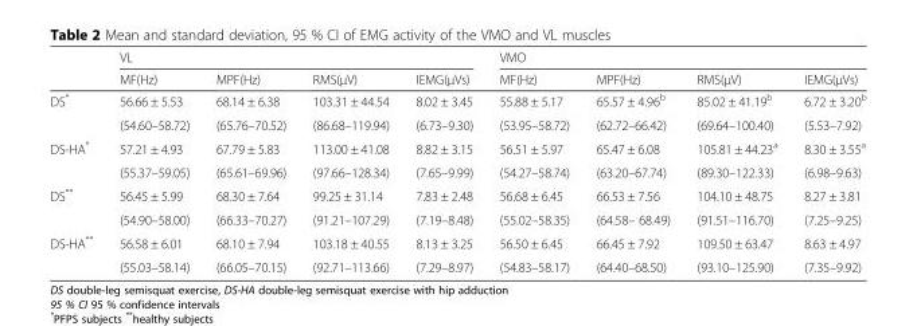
<table><thead><tr><td rowspan="2"></td><td colspan="4">VL</td><td colspan="4">VMO</td></tr><tr><td>MF(Hz)</td><td>MPF(Hz)</td><td>RMS(μV)</td><td>IEMG(μVs)</td><td>MF(Hz)</td><td>MPF(Hz)</td><td>RMS(μV)</td><td>IEMG(μVs)</td></tr></thead><tbody><tr><td rowspan="2">DS*</td><td>56.66 ± 5.53</td><td>68.14 ± 6.38</td><td>103.31 ± 44.54</td><td>8.02 ± 3.45</td><td>55.88 ± 5.17</td><td>65.57 ± 4.96<sup>b</sup></td><td>85.02 ± 41.19<sup>b</sup></td><td>6.72 ± 3.20<sup>b</sup></td></tr><tr><td>(54.60–58.72)</td><td>(65.76–70.52)</td><td>(86.68–119.94)</td><td>(6.73–9.30)</td><td>(53.95–58.72)</td><td>(62.72–66.42)</td><td>(69.64–100.40)</td><td>(5.53–7.92)</td></tr><tr><td rowspan="2">DS-HA*</td><td>57.21 ± 4.93</td><td>67.79 ± 5.83</td><td>113.00 ± 41.08</td><td>8.82 ± 3.15</td><td>56.51 ± 5.97</td><td>65.47 ± 6.08</td><td>105.81 ± 44.23<sup>a</sup></td><td>8.30 ± 3.55<sup>a</sup></td></tr><tr><td>(55.37–59.05)</td><td>(65.61–69.96)</td><td>(97.66–128.34)</td><td>(7.65–9.99)</td><td>(54.27–58.74)</td><td>(63.20–67.74)</td><td>(89.30–122.33)</td><td>(6.98–9.63)</td></tr><tr><td rowspan="2">DS**</td><td>56.45 ± 5.99</td><td>68.30 ± 7.64</td><td>99.25 ± 31.14</td><td>7.83 ± 2.48</td><td>56.68 ± 6.45</td><td>66.53 ± 7.56</td><td>104.10 ± 48.75</td><td>8.27 ± 3.81</td></tr><tr><td>(54.90–58.00)</td><td>(66.33–70.27)</td><td>(91.21–107.29)</td><td>(7.19–8.48)</td><td>(55.02–58.35)</td><td>(64.58– 68.49)</td><td>(91.51–116.70)</td><td>(7.25–9.25)</td></tr><tr><td rowspan="2">DS-HA**</td><td>56.58 ± 6.01</td><td>68.10 ± 7.94</td><td>103.18 ± 40.55</td><td>8.13 ± 3.25</td><td>56.50 ± 6.45</td><td>66.45 ± 7.92</td><td>109.50 ± 63.47</td><td>8.63 ± 4.97</td></tr><tr><td>(55.03–58.14)</td><td>(66.05–70.15)</td><td>(92.71–113.66)</td><td>(7.29–8.97)</td><td>(54.83–58.17)</td><td>(64.40–68.50)</td><td>(93.10–125.90)</td><td>(7.35–9.92)</td></tr></tbody></table>